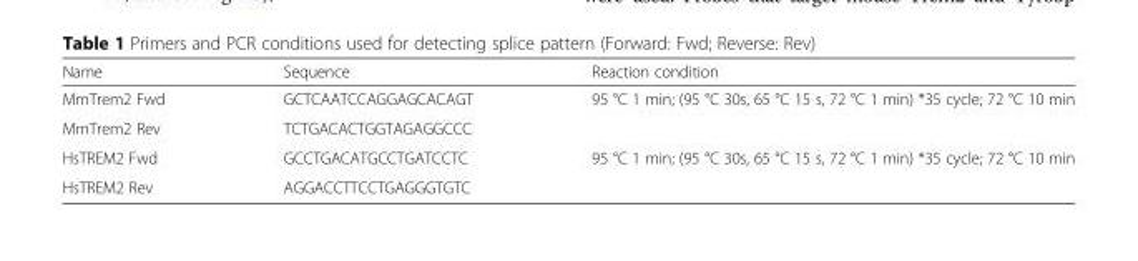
<table><thead><tr><td>Name</td><td>Sequence</td><td>Reaction condition</td></tr></thead><tbody><tr><td>MmTrem2 Fwd</td><td>GCTCAATCCAGGAGCACAGT</td><td rowspan="2">95 °C 1 min; (95 °C 30s, 65 °C 15 s, 72 °C 1 min) *35 cycle; 72 °C 10 min</td></tr><tr><td>MmTrem2 Rev</td><td>TCTGACACTGGTAGAGGCCC</td></tr><tr><td>HsTREM2 Fwd</td><td>GCCTGACATGCCTGATCCTC</td><td rowspan="2">95 °C 1 min; (95 °C 30s, 65 °C 15 s, 72 °C 1 min) *35 cycle; 72 °C 10 min</td></tr><tr><td>HsTREM2 Rev</td><td>AGGACCTTCCTGAGGGTGTC</td></tr></tbody></table>